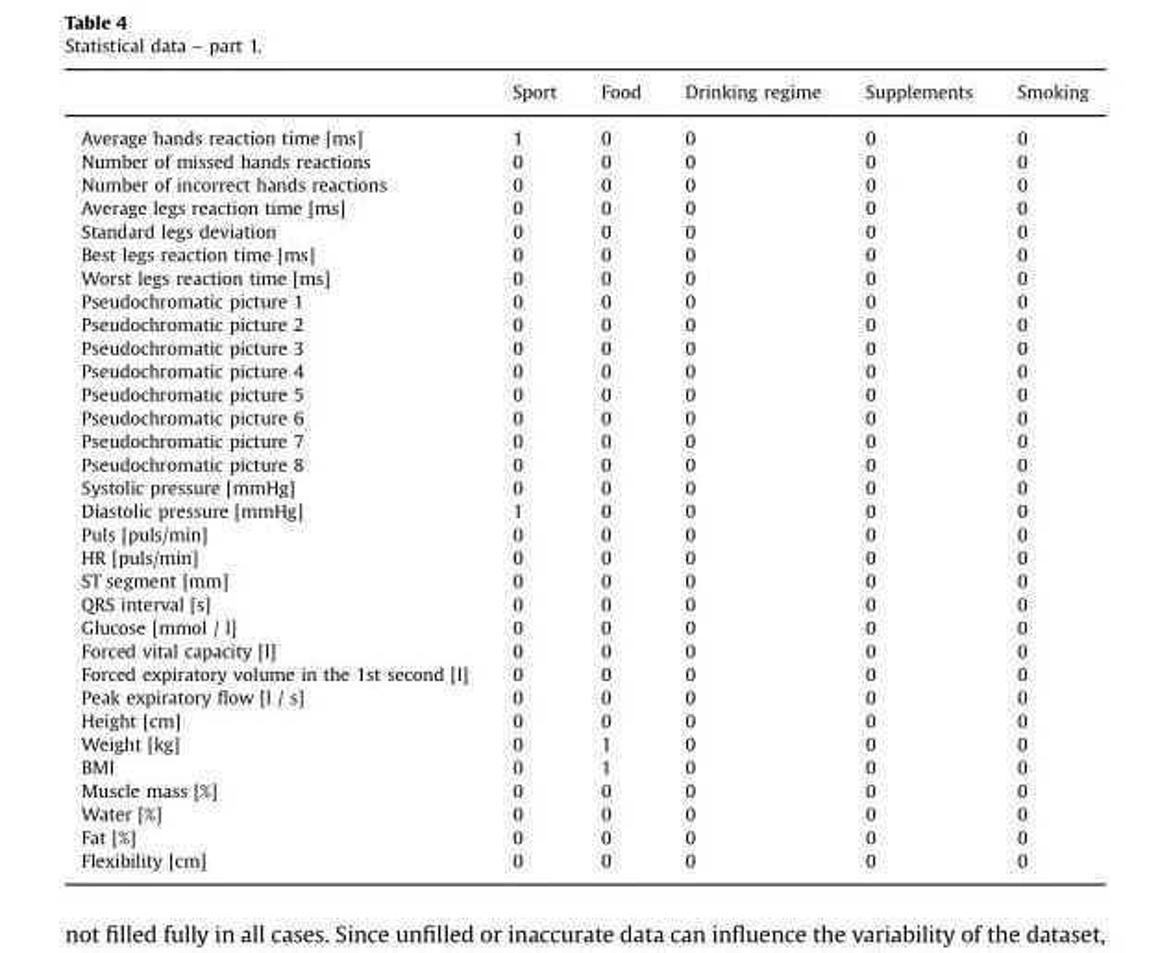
<table><thead><tr><td></td><td>Sport</td><td>Food</td><td>Drinking regime</td><td>Supplements</td><td>Smoking</td></tr></thead><tbody><tr><td>Average hands reaction time [ms]</td><td>1</td><td>0</td><td>0</td><td>0</td><td>0</td></tr><tr><td>Number of missed hands reactions</td><td>0</td><td>0</td><td>0</td><td>0</td><td>0</td></tr><tr><td>Number of incorrect hands reactions</td><td>0</td><td>0</td><td>0</td><td>0</td><td>0</td></tr><tr><td>Average legs reaction time [ms]</td><td>0</td><td>0</td><td>0</td><td>0</td><td>0</td></tr><tr><td>Standard legs deviation</td><td>0</td><td>0</td><td>0</td><td>0</td><td>0</td></tr><tr><td>Best legs reaction time [ms]</td><td>0</td><td>0</td><td>0</td><td>0</td><td>0</td></tr><tr><td>Worst legs reaction time [ms]</td><td>0</td><td>0</td><td>0</td><td>0</td><td>0</td></tr><tr><td>Pseudochromatic picture 1</td><td>0</td><td>0</td><td>0</td><td>0</td><td>0</td></tr><tr><td>Pseudochromatic picture 2</td><td>0</td><td>0</td><td>0</td><td>0</td><td>0</td></tr><tr><td>Pseudochromatic picture 3</td><td>0</td><td>0</td><td>0</td><td>0</td><td>0</td></tr><tr><td>Pseudochromatic picture 4</td><td>0</td><td>0</td><td>0</td><td>0</td><td>0</td></tr><tr><td>Pseudochromatic picture 5</td><td>0</td><td>0</td><td>0</td><td>0</td><td>0</td></tr><tr><td>Pseudochromatic picture 6</td><td>0</td><td>0</td><td>0</td><td>0</td><td>0</td></tr><tr><td>Pseudochromatic picture 7</td><td>0</td><td>0</td><td>0</td><td>0</td><td>0</td></tr><tr><td>Pseudochromatic picture 8</td><td>0</td><td>0</td><td>0</td><td>0</td><td>0</td></tr><tr><td>Systolic pressure [mmHg]</td><td>0</td><td>0</td><td>0</td><td>0</td><td>0</td></tr><tr><td>Diastolic pressure [mmHg]</td><td>1</td><td>0</td><td>0</td><td>0</td><td>0</td></tr><tr><td>Puls [puls/min]</td><td>0</td><td>0</td><td>0</td><td>0</td><td>0</td></tr><tr><td>HR [puls/min]</td><td>0</td><td>0</td><td>0</td><td>0</td><td>0</td></tr><tr><td>ST segment [mm]</td><td>0</td><td>0</td><td>0</td><td>0</td><td>0</td></tr><tr><td>QRS interval [s]</td><td>0</td><td>0</td><td>0</td><td>0</td><td>0</td></tr><tr><td>Glucose [mmol / l]</td><td>0</td><td>0</td><td>0</td><td>0</td><td>0</td></tr><tr><td>Forced vital capacity [l]</td><td>0</td><td>0</td><td>0</td><td>0</td><td>0</td></tr><tr><td>Forced expiratory volume in the 1st second [l]</td><td>0</td><td>0</td><td>0</td><td>0</td><td>0</td></tr><tr><td>Peak expiratory flow [l / s]</td><td>0</td><td>0</td><td>0</td><td>0</td><td>0</td></tr><tr><td>Height [cm]</td><td>0</td><td>0</td><td>0</td><td>0</td><td>0</td></tr><tr><td>Weight [kg]</td><td>0</td><td>1</td><td>0</td><td>0</td><td>0</td></tr><tr><td>BMI</td><td>0</td><td>1</td><td>0</td><td>0</td><td>0</td></tr><tr><td>Muscle mass [%]</td><td>0</td><td>0</td><td>0</td><td>0</td><td>0</td></tr><tr><td>Water [%]</td><td>0</td><td>0</td><td>0</td><td>0</td><td>0</td></tr><tr><td>Fat [%]</td><td>0</td><td>0</td><td>0</td><td>0</td><td>0</td></tr><tr><td>Flexibility [cm]</td><td>0</td><td>0</td><td>0</td><td>0</td><td>0</td></tr></tbody></table>